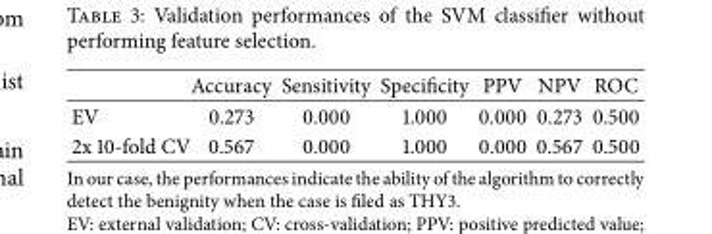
<table><thead><tr><td></td><td>Accuracy</td><td>Sensitivity</td><td>Specificity</td><td>PPV</td><td>NPV</td><td>ROC</td></tr></thead><tbody><tr><td>EV</td><td>0.273</td><td>0.000</td><td>1.000</td><td>0.000</td><td>0.273</td><td>0.500</td></tr><tr><td>2x 10-fold CV</td><td>0.567</td><td>0.000</td><td>1.000</td><td>0.000</td><td>0.567</td><td>0.500</td></tr></tbody></table>